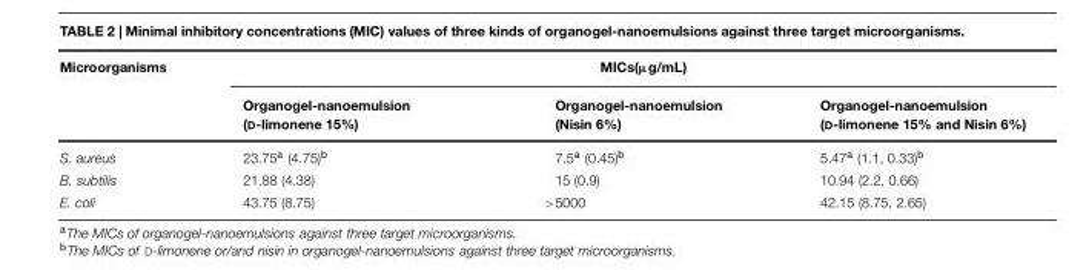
<table><thead><tr><td rowspan="2">Microorganisms</td><td colspan="3">MICs(µg/mL)</td></tr><tr><td>Organogel-nanoemulsion (D-limonene 15%)</td><td>Organogel-nanoemulsion (Nisin 6%)</td><td>Organogel-nanoemulsion (D-limonene 15% and Nisin 6%)</td></tr></thead><tbody><tr><td>S. aureus</td><td>23.75<sup>a</sup> (4.75)<sup>b</sup></td><td>7.5<sup>a</sup> (0.45)<sup>b</sup></td><td>5.47<sup>a</sup> (1.1, 0.33)<sup>b</sup></td></tr><tr><td>B. subtilis</td><td>21.88 (4.38)</td><td>15 (0.9)</td><td>10.94 (2.2, 0.66)</td></tr><tr><td>E. coli</td><td>43.75 (8.75)</td><td>&gt;5000</td><td>42.15 (8.75, 2.65)</td></tr></tbody></table>